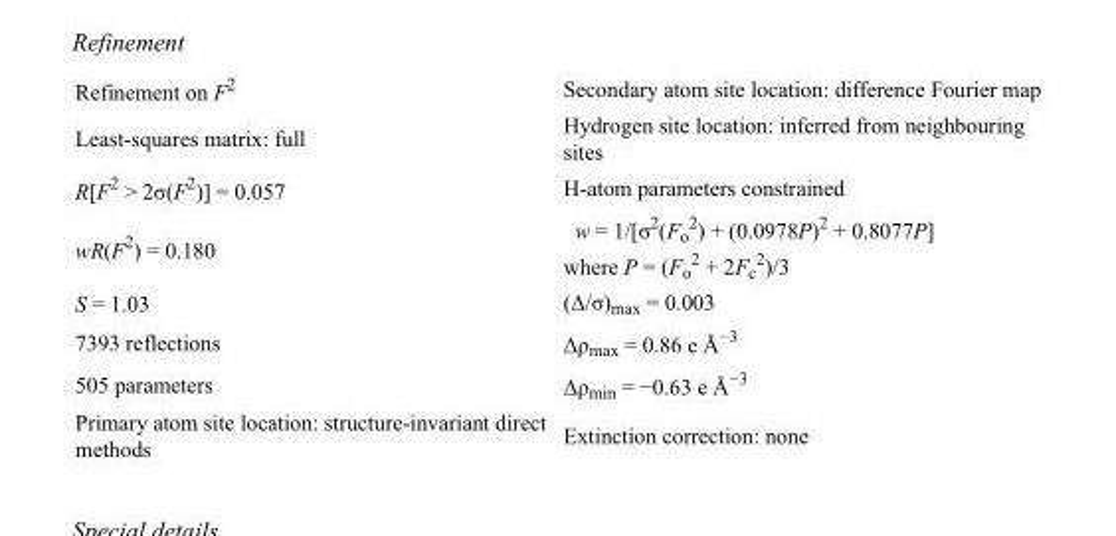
<table><tbody><tr><td>Refinement on F<sup>2</sup></td><td>Secondary atom site location: difference Fourier map</td></tr><tr><td>Least-squares matrix: full</td><td>Hydrogen site location: inferred from neighbouring sites</td></tr><tr><td>R[F<sup>2</sup> &gt; 2σ(F<sup>2</sup>)] = 0.057</td><td>H-atom parameters constrained</td></tr><tr><td>wR(F<sup>2</sup>) = 0.180</td><td>w = 1/[σ<sup>2</sup>(F<sub>o</sub> <sup>2</sup>) + (0.0978P)<sup>2</sup> + 0.8077P] where P = (F<sub>o</sub> <sup>2</sup> + 2F<sub>c</sub> <sup>2</sup>)/3</td></tr><tr><td>S = 1.03</td><td>(Δ/σ)<sub>max</sub> = 0.003</td></tr><tr><td>7393 reflections</td><td>Δρ<sub>max</sub> = 0.86 e Å<sup>−3</sup></td></tr><tr><td>505 parameters</td><td>Δρ<sub>min</sub> = −0.63 e Å<sup>−3</sup></td></tr><tr><td>Primary atom site location: structure-invariant direct methods</td><td>Extinction correction: none</td></tr></tbody></table>